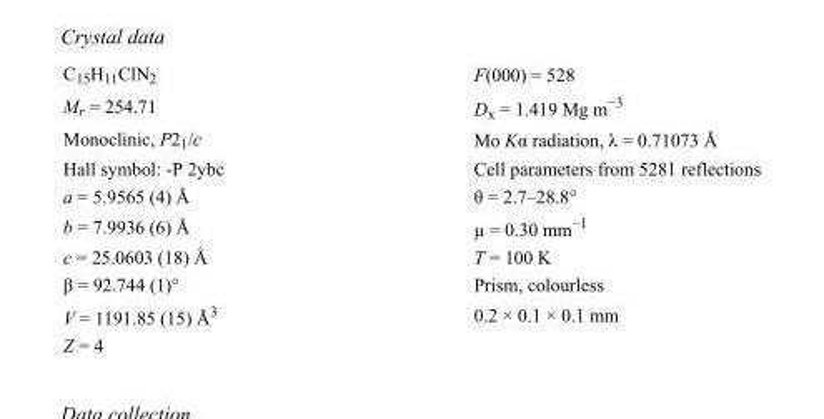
<table><tbody><tr><td>C<sub>15</sub>H<sub>11</sub>ClN<sub>2</sub></td><td>F(000) = 528</td></tr><tr><td>M<sub>r</sub> = 254.71</td><td>D<sub>x</sub> = 1.419 Mg m<sup>−3</sup></td></tr><tr><td>Monoclinic, P2<sub>1</sub>/c</td><td>Mo Kα radiation, λ = 0.71073 Å</td></tr><tr><td>Hall symbol: -P 2ybc</td><td>Cell parameters from 5281 reflections</td></tr><tr><td>a = 5.9565 (4) Å</td><td>θ = 2.7–28.8°</td></tr><tr><td>b = 7.9936 (6) Å</td><td>µ = 0.30 mm<sup>−1</sup></td></tr><tr><td>c = 25.0603 (18) Å</td><td>T = 100 K</td></tr><tr><td>β = 92.744 (1)°</td><td>Prism, colourless</td></tr><tr><td>V = 1191.85 (15) Å<sup>3</sup></td><td>0.2 × 0.1 × 0.1 mm</td></tr><tr><td>Z = 4</td><td></td></tr></tbody></table>